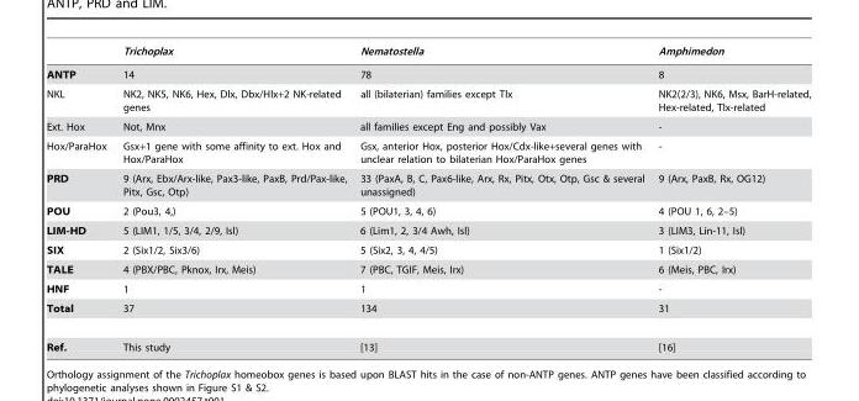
<table><thead><tr><td></td><td>Trichoplax</td><td>Nematostella</td><td>Amphimedon</td></tr></thead><tbody><tr><td>ANTP</td><td>14</td><td>78</td><td>8</td></tr><tr><td>NKL</td><td>NK2, NK5, NK6, Hex, Dlx, Dbx/Hlx+2 NK-related genes</td><td>all (bilaterian) families except Tlx</td><td>NK2(2/3), NK6, Msx, BarH-related, Hex-related, Tlx-related</td></tr><tr><td>Ext. Hox</td><td>Not, Mnx</td><td>all families except Eng and possibly Vax</td><td>-</td></tr><tr><td>Hox/ParaHox</td><td>Gsx+1 gene with some affinity to ext. Hox and Hox/ParaHox</td><td>Gsx, anterior Hox, posterior Hox/Cdx-like+several genes with unclear relation to bilaterian Hox/ParaHox genes</td><td>-</td></tr><tr><td>PRD</td><td>9 (Arx, Ebx/Arx-like, Pax3-like, PaxB, Prd/Pax-like, Pitx, Gsc, Otp)</td><td>33 (PaxA, B, C, Pax6-like, Arx, Rx, Pitx, Otx, Otp, Gsc &amp; several unassigned)</td><td>9 (Arx, PaxB, Rx, OG12)</td></tr><tr><td>POU</td><td>2 (Pou3, 4,)</td><td>5 (POU1, 3, 4, 6)</td><td>4 (POU 1, 6, 2–5)</td></tr><tr><td>LIM-HD</td><td>5 (LIM1, 1/5, 3/4, 2/9, Isl)</td><td>6 (Lim1, 2, 3/4 Awh, Isl)</td><td>3 (LIM3, Lin-11, Isl)</td></tr><tr><td>SIX</td><td>2 (Six1/2, Six3/6)</td><td>5 (Six2, 3, 4, 4/5)</td><td>1 (Six1/2)</td></tr><tr><td>TALE</td><td>4 (PBX/PBC, Pknox, Irx, Meis)</td><td>7 (PBC, TGIF, Meis, Irx)</td><td>6 (Meis, PBC, Irx)</td></tr><tr><td>HNF</td><td>1</td><td>1</td><td>-</td></tr><tr><td>Total</td><td>37</td><td>134</td><td>31</td></tr><tr><td>Ref.</td><td>This study</td><td>[13]</td><td>[16]</td></tr></tbody></table>